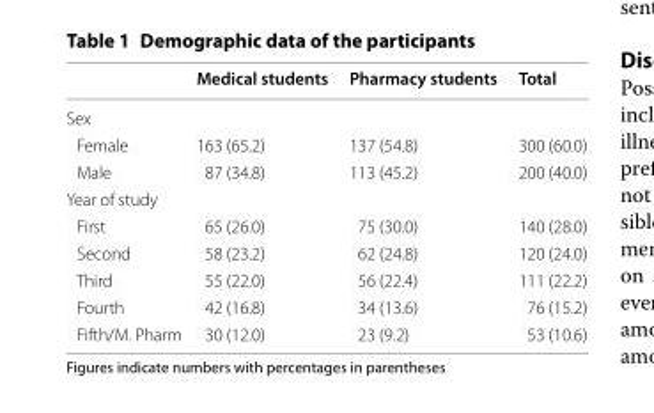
<table><thead><tr><td></td><td>Medical students</td><td>Pharmacy students</td><td>Total</td></tr></thead><tbody><tr><td colspan="4">Sex</td></tr><tr><td>Female</td><td>163 (65.2)</td><td>137 (54.8)</td><td>300 (60.0)</td></tr><tr><td>Male</td><td>87 (34.8)</td><td>113 (45.2)</td><td>200 (40.0)</td></tr><tr><td colspan="4">Year of study</td></tr><tr><td>First</td><td>65 (26.0)</td><td>75 (30.0)</td><td>140 (28.0)</td></tr><tr><td>Second</td><td>58 (23.2)</td><td>62 (24.8)</td><td>120 (24.0)</td></tr><tr><td>Third</td><td>55 (22.0)</td><td>56 (22.4)</td><td>111 (22.2)</td></tr><tr><td>Fourth</td><td>42 (16.8)</td><td>34 (13.6)</td><td>76 (15.2)</td></tr><tr><td>Fifth/M. Pharm</td><td>30 (12.0)</td><td>23 (9.2)</td><td>53 (10.6)</td></tr></tbody></table>